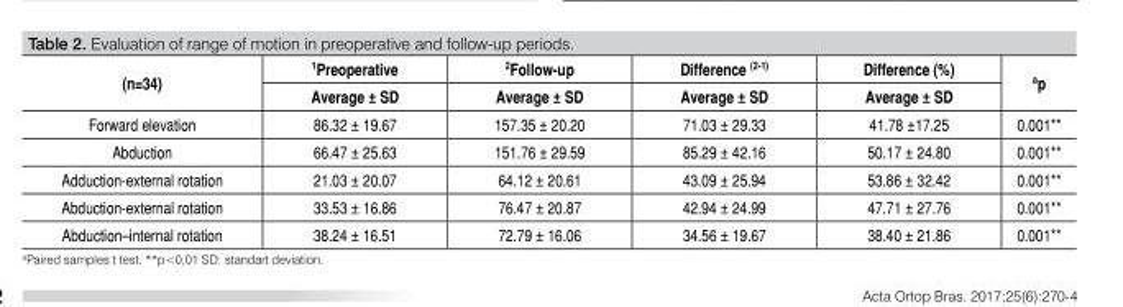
<table><thead><tr><td rowspan="2">(n=34)</td><td rowspan="2"><sup>1</sup>Preoperative Average ± SD</td><td rowspan="2"><sup>2</sup>Follow-up Average ± SD</td><td rowspan="2">Difference (2-1) Average ± SD</td><td rowspan="2">Difference (%) Average ± SD</td><td rowspan="2"><sup>a</sup>p</td></tr><tr></tr></thead><tbody><tr><td>Forward elevation</td><td>86.32 ± 19.67</td><td>157.35 ± 20.20</td><td>71.03 ± 29.33</td><td>41.78 ±17.25</td><td>0.001**</td></tr><tr><td>Abduction</td><td>66.47 ± 25.63</td><td>151.76 ± 29.59</td><td>85.29 ± 42.16</td><td>50.17 ± 24.80</td><td>0.001**</td></tr><tr><td>Adduction-external rotation</td><td>21.03 ± 20.07</td><td>64.12 ± 20.61</td><td>43.09 ± 25.94</td><td>53.86 ± 32.42</td><td>0.001**</td></tr><tr><td>Abduction-external rotation</td><td>33.53 ± 16.86</td><td>76.47 ± 20.87</td><td>42.94 ± 24.99</td><td>47.71 ± 27.76</td><td>0.001**</td></tr><tr><td>Abduction–internal rotation</td><td>38.24 ± 16.51</td><td>72.79 ± 16.06</td><td>34.56 ± 19.67</td><td>38.40 ± 21.86</td><td>0.001**</td></tr></tbody></table>